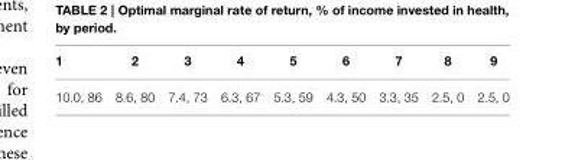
<table><thead><tr><td>1</td><td>2</td><td>3</td><td>4</td><td>5</td><td>6</td><td>7</td><td>8</td><td>9</td></tr></thead><tbody><tr><td>10.0, 86</td><td>8.6, 80</td><td>7.4, 73</td><td>6.3, 67</td><td>5.3, 59</td><td>4.3, 50</td><td>3.3, 35</td><td>2.5, 0</td><td>2.5, 0</td></tr></tbody></table>